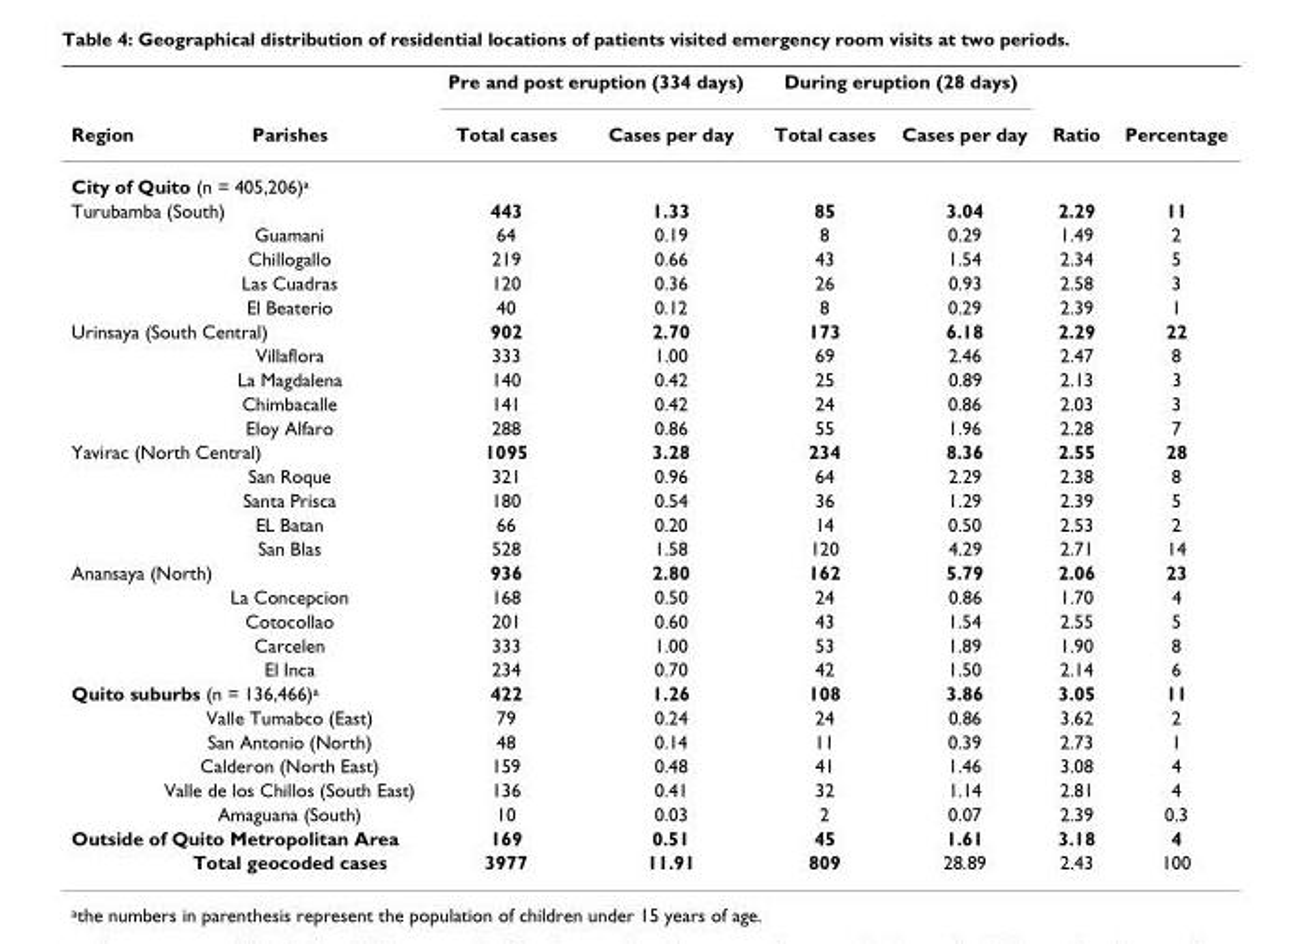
<table><thead><tr><td rowspan="2">Region</td><td rowspan="2">Parishes</td><td colspan="2">Pre and post eruption (334 days)</td><td colspan="2">During eruption (28 days)</td><td rowspan="2">Ratio</td><td rowspan="2">Percentage</td></tr><tr><td>Total cases</td><td>Cases per day</td><td>Total cases</td><td>Cases per day</td></tr></thead><tbody><tr><td colspan="8">City of Quito (n = 405,206)<sup>a</sup></td></tr><tr><td colspan="2">Turubamba (South)</td><td>443</td><td>1.33</td><td>85</td><td>3.04</td><td>2.29</td><td>11</td></tr><tr><td></td><td>Guamani</td><td>64</td><td>0.19</td><td>8</td><td>0.29</td><td>1.49</td><td>2</td></tr><tr><td></td><td>Chillogallo</td><td>219</td><td>0.66</td><td>43</td><td>1.54</td><td>2.34</td><td>5</td></tr><tr><td></td><td>Las Cuadras</td><td>120</td><td>0.36</td><td>26</td><td>0.93</td><td>2.58</td><td>3</td></tr><tr><td></td><td>El Beaterio</td><td>40</td><td>0.12</td><td>8</td><td>0.29</td><td>2.39</td><td>1</td></tr><tr><td colspan="2">Urinsaya (South Central)</td><td>902</td><td>2.70</td><td>173</td><td>6.18</td><td>2.29</td><td>22</td></tr><tr><td></td><td>Villaflora</td><td>333</td><td>1.00</td><td>69</td><td>2.46</td><td>2.47</td><td>8</td></tr><tr><td></td><td>La Magdalena</td><td>140</td><td>0.42</td><td>25</td><td>0.89</td><td>2.13</td><td>3</td></tr><tr><td></td><td>Chimbacalle</td><td>141</td><td>0.42</td><td>24</td><td>0.86</td><td>2.03</td><td>3</td></tr><tr><td></td><td>Eloy Alfaro</td><td>288</td><td>0.86</td><td>55</td><td>1.96</td><td>2.28</td><td>7</td></tr><tr><td colspan="2">Yavirac (North Central)</td><td>1095</td><td>3.28</td><td>234</td><td>8.36</td><td>2.55</td><td>28</td></tr><tr><td></td><td>San Roque</td><td>321</td><td>0.96</td><td>64</td><td>2.29</td><td>2.38</td><td>8</td></tr><tr><td></td><td>Santa Prisca</td><td>180</td><td>0.54</td><td>36</td><td>1.29</td><td>2.39</td><td>5</td></tr><tr><td></td><td>EL Batan</td><td>66</td><td>0.20</td><td>14</td><td>0.50</td><td>2.53</td><td>2</td></tr><tr><td></td><td>San Blas</td><td>528</td><td>1.58</td><td>120</td><td>4.29</td><td>2.71</td><td>14</td></tr><tr><td colspan="2">Anansaya (North)</td><td>936</td><td>2.80</td><td>162</td><td>5.79</td><td>2.06</td><td>23</td></tr><tr><td></td><td>La Concepcion</td><td>168</td><td>0.50</td><td>24</td><td>0.86</td><td>1.70</td><td>4</td></tr><tr><td></td><td>Cotocollao</td><td>201</td><td>0.60</td><td>43</td><td>1.54</td><td>2.55</td><td>5</td></tr><tr><td></td><td>Carcelen</td><td>333</td><td>1.00</td><td>53</td><td>1.89</td><td>1.90</td><td>8</td></tr><tr><td></td><td>El Inca</td><td>234</td><td>0.70</td><td>42</td><td>1.50</td><td>2.14</td><td>6</td></tr><tr><td colspan="2">Quito suburbs (n = 136,466)<sup>a</sup></td><td>422</td><td>1.26</td><td>108</td><td>3.86</td><td>3.05</td><td>11</td></tr><tr><td></td><td>Valle Tumabco (East)</td><td>79</td><td>0.24</td><td>24</td><td>0.86</td><td>3.62</td><td>2</td></tr><tr><td></td><td>San Antonio (North)</td><td>48</td><td>0.14</td><td>11</td><td>0.39</td><td>2.73</td><td>1</td></tr><tr><td></td><td>Calderon (North East)</td><td>159</td><td>0.48</td><td>41</td><td>1.46</td><td>3.08</td><td>4</td></tr><tr><td></td><td>Valle de los Chillos (South East)</td><td>136</td><td>0.41</td><td>32</td><td>1.14</td><td>2.81</td><td>4</td></tr><tr><td></td><td>Amaguana (South)</td><td>10</td><td>0.03</td><td>2</td><td>0.07</td><td>2.39</td><td>0.3</td></tr><tr><td colspan="2">Outside of Quito Metropolitan Area</td><td>169</td><td>0.51</td><td>45</td><td>1.61</td><td>3.18</td><td>4</td></tr><tr><td></td><td>Total geocoded cases</td><td>3977</td><td>11.91</td><td>809</td><td>28.89</td><td>2.43</td><td>100</td></tr></tbody></table>